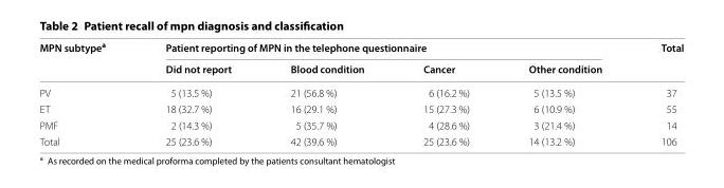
<table><thead><tr><td rowspan="2">MPN subtype<sup>a</sup></td><td colspan="4">Patient reporting of MPN in the telephone questionnaire</td><td rowspan="2">Total</td></tr><tr><td>Did not report</td><td>Blood condition</td><td>Cancer</td><td>Other condition</td></tr></thead><tbody><tr><td>PV</td><td>5 (13.5 %)</td><td>21 (56.8 %)</td><td>6 (16.2 %)</td><td>5 (13.5 %)</td><td>37</td></tr><tr><td>ET</td><td>18 (32.7 %)</td><td>16 (29.1 %)</td><td>15 (27.3 %)</td><td>6 (10.9 %)</td><td>55</td></tr><tr><td>PMF</td><td>2 (14.3 %)</td><td>5 (35.7 %)</td><td>4 (28.6 %)</td><td>3 (21.4 %)</td><td>14</td></tr><tr><td>Total</td><td>25 (23.6 %)</td><td>42 (39.6 %)</td><td>25 (23.6 %)</td><td>14 (13.2 %)</td><td>106</td></tr></tbody></table>